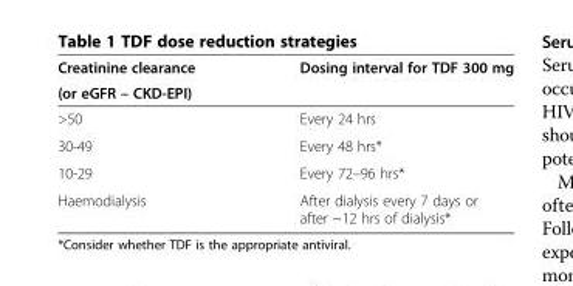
<table><thead><tr><td rowspan="2">Creatinine clearance (or eGFR – CKD-EPI)</td><td rowspan="2">Dosing interval for TDF 300 mg</td></tr><tr></tr></thead><tbody><tr><td>&gt;50</td><td>Every 24 hrs</td></tr><tr><td>30-49</td><td>Every 48 hrs*</td></tr><tr><td>10-29</td><td>Every 72–96 hrs*</td></tr><tr><td>Haemodialysis</td><td>After dialysis every 7 days or after ~12 hrs of dialysis*</td></tr></tbody></table>